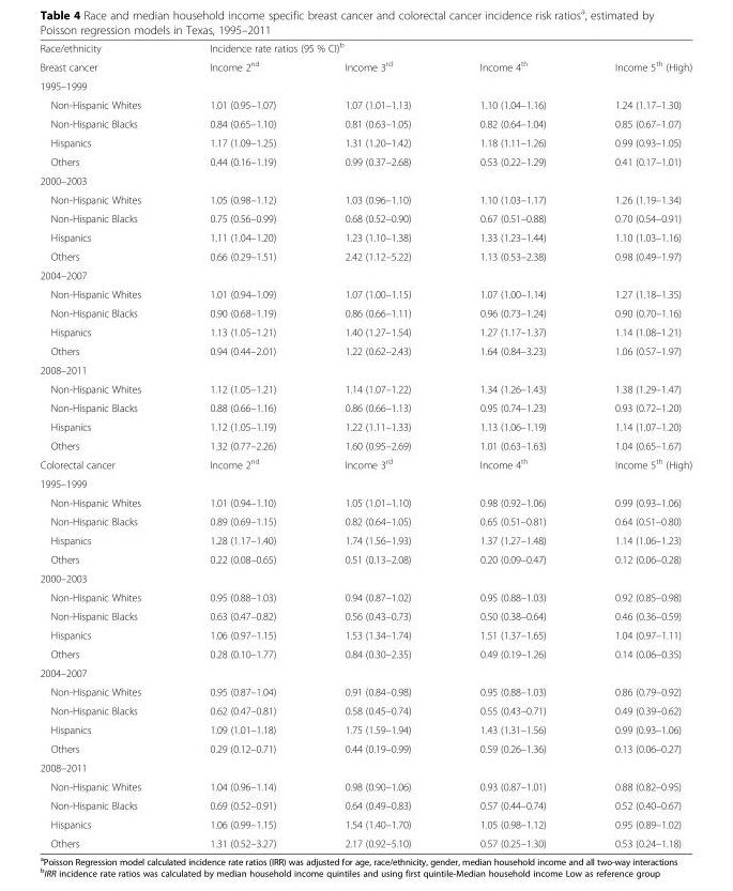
<table><tbody><tr><td>Race/ethnicity</td><td colspan="4">Incidence rate ratios (95 % CI)<sup>b</sup></td></tr><tr><td>Breast cancer</td><td>Income 2<sup>nd</sup></td><td>Income 3<sup>rd</sup></td><td>Income 4<sup>th</sup></td><td>Income 5<sup>th</sup> (High)</td></tr><tr><td colspan="5">1995–1999</td></tr><tr><td>Non-Hispanic Whites</td><td>1.01 (0.95–1.07)</td><td>1.07 (1.01–1.13)</td><td>1.10 (1.04–1.16)</td><td>1.24 (1.17–1.30)</td></tr><tr><td>Non-Hispanic Blacks</td><td>0.84 (0.65–1.10)</td><td>0.81 (0.63–1.05)</td><td>0.82 (0.64–1.04)</td><td>0.85 (0.67–1.07)</td></tr><tr><td>Hispanics</td><td>1.17 (1.09–1.25)</td><td>1.31 (1.20–1.42)</td><td>1.18 (1.11–1.26)</td><td>0.99 (0.93–1.05)</td></tr><tr><td>Others</td><td>0.44 (0.16–1.19)</td><td>0.99 (0.37–2.68)</td><td>0.53 (0.22–1.29)</td><td>0.41 (0.17–1.01)</td></tr><tr><td colspan="5">2000–2003</td></tr><tr><td>Non-Hispanic Whites</td><td>1.05 (0.98–1.12)</td><td>1.03 (0.96–1.10)</td><td>1.10 (1.03–1.17)</td><td>1.26 (1.19–1.34)</td></tr><tr><td>Non-Hispanic Blacks</td><td>0.75 (0.56–0.99)</td><td>0.68 (0.52–0.90)</td><td>0.67 (0.51–0.88)</td><td>0.70 (0.54–0.91)</td></tr><tr><td>Hispanics</td><td>1.11 (1.04–1.20)</td><td>1.23 (1.10–1.38)</td><td>1.33 (1.23–1.44)</td><td>1.10 (1.03–1.16)</td></tr><tr><td>Others</td><td>0.66 (0.29–1.51)</td><td>2.42 (1.12–5.22)</td><td>1.13 (0.53–2.38)</td><td>0.98 (0.49–1.97)</td></tr><tr><td colspan="5">2004–2007</td></tr><tr><td>Non-Hispanic Whites</td><td>1.01 (0.94–1.09)</td><td>1.07 (1.00–1.15)</td><td>1.07 (1.00–1.14)</td><td>1.27 (1.18–1.35)</td></tr><tr><td>Non-Hispanic Blacks</td><td>0.90 (0.68–1.19)</td><td>0.86 (0.66–1.11)</td><td>0.96 (0.73–1.24)</td><td>0.90 (0.70–1.16)</td></tr><tr><td>Hispanics</td><td>1.13 (1.05–1.21)</td><td>1.40 (1.27–1.54)</td><td>1.27 (1.17–1.37)</td><td>1.14 (1.08–1.21)</td></tr><tr><td>Others</td><td>0.94 (0.44–2.01)</td><td>1.22 (0.62–2.43)</td><td>1.64 (0.84–3.23)</td><td>1.06 (0.57–1.97)</td></tr><tr><td colspan="5">2008–2011</td></tr><tr><td>Non-Hispanic Whites</td><td>1.12 (1.05–1.21)</td><td>1.14 (1.07–1.22)</td><td>1.34 (1.26–1.43)</td><td>1.38 (1.29–1.47)</td></tr><tr><td>Non-Hispanic Blacks</td><td>0.88 (0.66–1.16)</td><td>0.86 (0.66–1.13)</td><td>0.95 (0.74–1.23)</td><td>0.93 (0.72–1.20)</td></tr><tr><td>Hispanics</td><td>1.12 (1.05–1.19)</td><td>1.22 (1.11–1.33)</td><td>1.13 (1.06–1.19)</td><td>1.14 (1.07–1.20)</td></tr><tr><td>Others</td><td>1.32 (0.77–2.26)</td><td>1.60 (0.95–2.69)</td><td>1.01 (0.63–1.63)</td><td>1.04 (0.65–1.67)</td></tr><tr><td>Colorectal cancer</td><td>Income 2<sup>nd</sup></td><td>Income 3<sup>rd</sup></td><td>Income 4<sup>th</sup></td><td>Income 5<sup>th</sup> (High)</td></tr><tr><td colspan="5">1995–1999</td></tr><tr><td>Non-Hispanic Whites</td><td>1.01 (0.94–1.10)</td><td>1.05 (1.01–1.10)</td><td>0.98 (0.92–1.06)</td><td>0.99 (0.93–1.06)</td></tr><tr><td>Non-Hispanic Blacks</td><td>0.89 (0.69–1.15)</td><td>0.82 (0.64–1.05)</td><td>0.65 (0.51–0.81)</td><td>0.64 (0.51–0.80)</td></tr><tr><td>Hispanics</td><td>1.28 (1.17–1.40)</td><td>1.74 (1.56–1.93)</td><td>1.37 (1.27–1.48)</td><td>1.14 (1.06–1.23)</td></tr><tr><td>Others</td><td>0.22 (0.08–0.65)</td><td>0.51 (0.13–2.08)</td><td>0.20 (0.09–0.47)</td><td>0.12 (0.06–0.28)</td></tr><tr><td colspan="5">2000–2003</td></tr><tr><td>Non-Hispanic Whites</td><td>0.95 (0.88–1.03)</td><td>0.94 (0.87–1.02)</td><td>0.95 (0.88–1.03)</td><td>0.92 (0.85–0.98)</td></tr><tr><td>Non-Hispanic Blacks</td><td>0.63 (0.47–0.82)</td><td>0.56 (0.43–0.73)</td><td>0.50 (0.38–0.64)</td><td>0.46 (0.36–0.59)</td></tr><tr><td>Hispanics</td><td>1.06 (0.97–1.15)</td><td>1.53 (1.34–1.74)</td><td>1.51 (1.37–1.65)</td><td>1.04 (0.97–1.11)</td></tr><tr><td>Others</td><td>0.28 (0.10–1.77)</td><td>0.84 (0.30–2.35)</td><td>0.49 (0.19–1.26)</td><td>0.14 (0.06–0.35)</td></tr><tr><td colspan="5">2004–2007</td></tr><tr><td>Non-Hispanic Whites</td><td>0.95 (0.87–1.04)</td><td>0.91 (0.84–0.98)</td><td>0.95 (0.88–1.03)</td><td>0.86 (0.79–0.92)</td></tr><tr><td>Non-Hispanic Blacks</td><td>0.62 (0.47–0.81)</td><td>0.58 (0.45–0.74)</td><td>0.55 (0.43–0.71)</td><td>0.49 (0.39–0.62)</td></tr><tr><td>Hispanics</td><td>1.09 (1.01–1.18)</td><td>1.75 (1.59–1.94)</td><td>1.43 (1.31–1.56)</td><td>0.99 (0.93–1.06)</td></tr><tr><td>Others</td><td>0.29 (0.12–0.71)</td><td>0.44 (0.19–0.99)</td><td>0.59 (0.26–1.36)</td><td>0.13 (0.06–0.27)</td></tr><tr><td colspan="5">2008–2011</td></tr><tr><td>Non-Hispanic Whites</td><td>1.04 (0.96–1.14)</td><td>0.98 (0.90–1.06)</td><td>0.93 (0.87–1.01)</td><td>0.88 (0.82–0.95)</td></tr><tr><td>Non-Hispanic Blacks</td><td>0.69 (0.52–0.91)</td><td>0.64 (0.49–0.83)</td><td>0.57 (0.44–0.74)</td><td>0.52 (0.40–0.67)</td></tr><tr><td>Hispanics</td><td>1.06 (0.99–1.15)</td><td>1.54 (1.40–1.70)</td><td>1.05 (0.98–1.12)</td><td>0.95 (0.89–1.02)</td></tr><tr><td>Others</td><td>1.31 (0.52–3.27)</td><td>2.17 (0.92–5.10)</td><td>0.57 (0.25–1.30)</td><td>0.53 (0.24–1.18)</td></tr></tbody></table>